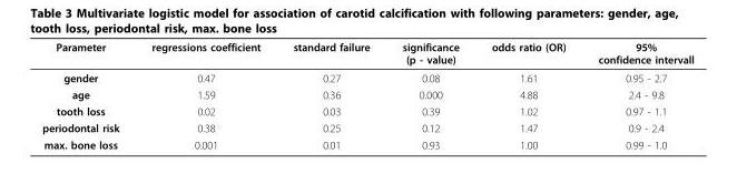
<table><thead><tr><td>Parameter</td><td>regressions coefficient</td><td>standard failure</td><td>significance (p - value)</td><td>odds ratio (OR)</td><td>95% confidence intervall</td></tr></thead><tbody><tr><td>gender</td><td>0.47</td><td>0.27</td><td>0.08</td><td>1.61</td><td>0.95 - 2.7</td></tr><tr><td>age</td><td>1.59</td><td>0.36</td><td>0.000</td><td>4.88</td><td>2.4 - 9.8</td></tr><tr><td>tooth loss</td><td>0.02</td><td>0.03</td><td>0.39</td><td>1.02</td><td>0.97 - 1.1</td></tr><tr><td>periodontal risk</td><td>0.38</td><td>0.25</td><td>0.12</td><td>1.47</td><td>0.9 - 2.4</td></tr><tr><td>max. bone loss</td><td>0.001</td><td>0.01</td><td>0.93</td><td>1.00</td><td>0.99 - 1.0</td></tr></tbody></table>